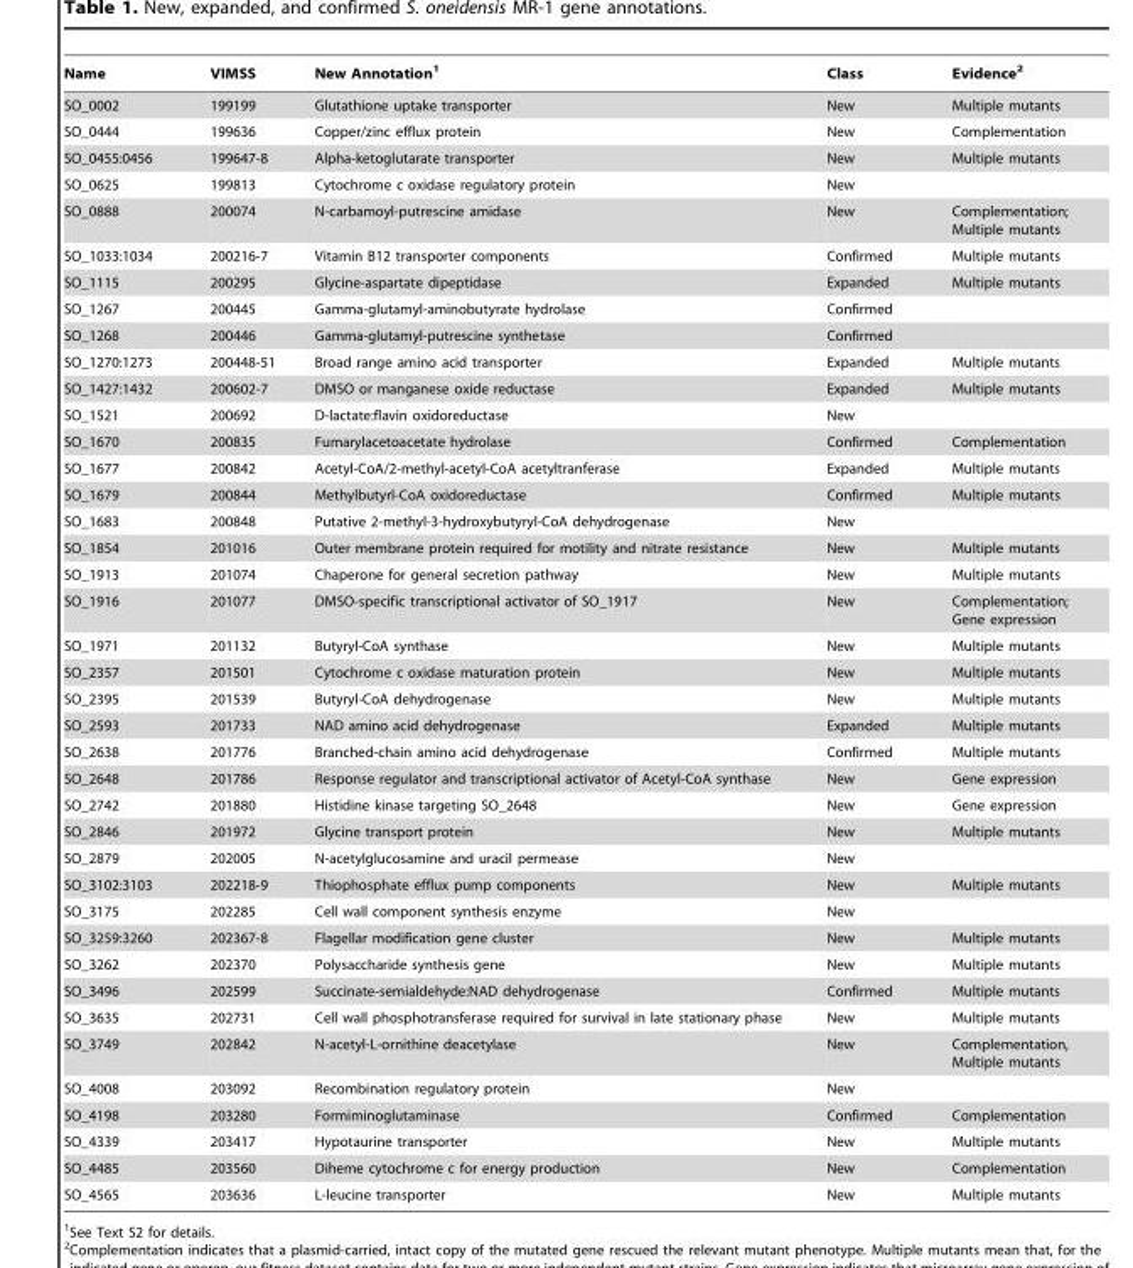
<table><thead><tr><td>Name</td><td>VIMSS</td><td>New Annotation<sup>1</sup></td><td>Class</td><td>Evidence<sup>2</sup></td></tr></thead><tbody><tr><td>SO_0002</td><td>199199</td><td>Glutathione uptake transporter</td><td>New</td><td>Multiple mutants</td></tr><tr><td>SO_0444</td><td>199636</td><td>Copper/zinc efflux protein</td><td>New</td><td>Complementation</td></tr><tr><td>SO_0455:0456</td><td>199647-8</td><td>Alpha-ketoglutarate transporter</td><td>New</td><td>Multiple mutants</td></tr><tr><td>SO_0625</td><td>199813</td><td>Cytochrome c oxidase regulatory protein</td><td>New</td><td></td></tr><tr><td>SO_0888</td><td>200074</td><td>N-carbamoyl-putrescine amidase</td><td>New</td><td>Complementation; Multiple mutants</td></tr><tr><td>SO_1033:1034</td><td>200216-7</td><td>Vitamin B12 transporter components</td><td>Confirmed</td><td>Multiple mutants</td></tr><tr><td>SO_1115</td><td>200295</td><td>Glycine-aspartate dipeptidase</td><td>Expanded</td><td>Multiple mutants</td></tr><tr><td>SO_1267</td><td>200445</td><td>Gamma-glutamyl-aminobutyrate hydrolase</td><td>Confirmed</td><td></td></tr><tr><td>SO_1268</td><td>200446</td><td>Gamma-glutamyl-putrescine synthetase</td><td>Confirmed</td><td></td></tr><tr><td>SO_1270:1273</td><td>200448-51</td><td>Broad range amino acid transporter</td><td>Expanded</td><td>Multiple mutants</td></tr><tr><td>SO_1427:1432</td><td>200602-7</td><td>DMSO or manganese oxide reductase</td><td>Expanded</td><td>Multiple mutants</td></tr><tr><td>SO_1521</td><td>200692</td><td>D-lactate:flavin oxidoreductase</td><td>New</td><td></td></tr><tr><td>SO_1670</td><td>200835</td><td>Fumarylacetoacetate hydrolase</td><td>Confirmed</td><td>Complementation</td></tr><tr><td>SO_1677</td><td>200842</td><td>Acetyl-CoA/2-methyl-acetyl-CoA acetyltranferase</td><td>Expanded</td><td>Multiple mutants</td></tr><tr><td>SO_1679</td><td>200844</td><td>Methylbutyrl-CoA oxidoreductase</td><td>Confirmed</td><td>Multiple mutants</td></tr><tr><td>SO_1683</td><td>200848</td><td>Putative 2-methyl-3-hydroxybutyryl-CoA dehydrogenase</td><td>New</td><td></td></tr><tr><td>SO_1854</td><td>201016</td><td>Outer membrane protein required for motility and nitrate resistance</td><td>New</td><td>Multiple mutants</td></tr><tr><td>SO_1913</td><td>201074</td><td>Chaperone for general secretion pathway</td><td>New</td><td>Multiple mutants</td></tr><tr><td>SO_1916</td><td>201077</td><td>DMSO-specific transcriptional activator of SO_1917</td><td>New</td><td>Complementation; Gene expression</td></tr><tr><td>SO_1971</td><td>201132</td><td>Butyryl-CoA synthase</td><td>New</td><td>Multiple mutants</td></tr><tr><td>SO_2357</td><td>201501</td><td>Cytochrome c oxidase maturation protein</td><td>New</td><td>Multiple mutants</td></tr><tr><td>SO_2395</td><td>201539</td><td>Butyryl-CoA dehydrogenase</td><td>New</td><td>Multiple mutants</td></tr><tr><td>SO_2593</td><td>201733</td><td>NAD amino acid dehydrogenase</td><td>Expanded</td><td>Multiple mutants</td></tr><tr><td>SO_2638</td><td>201776</td><td>Branched-chain amino acid dehydrogenase</td><td>Confirmed</td><td>Multiple mutants</td></tr><tr><td>SO_2648</td><td>201786</td><td>Response regulator and transcriptional activator of Acetyl-CoA synthase</td><td>New</td><td>Gene expression</td></tr><tr><td>SO_2742</td><td>201880</td><td>Histidine kinase targeting SO_2648</td><td>New</td><td>Gene expression</td></tr><tr><td>SO_2846</td><td>201972</td><td>Glycine transport protein</td><td>New</td><td>Multiple mutants</td></tr><tr><td>SO_2879</td><td>202005</td><td>N-acetylglucosamine and uracil permease</td><td>New</td><td></td></tr><tr><td>SO_3102:3103</td><td>202218-9</td><td>Thiophosphate efflux pump components</td><td>New</td><td>Multiple mutants</td></tr><tr><td>SO_3175</td><td>202285</td><td>Cell wall component synthesis enzyme</td><td>New</td><td></td></tr><tr><td>SO_3259:3260</td><td>202367-8</td><td>Flagellar modification gene cluster</td><td>New</td><td>Multiple mutants</td></tr><tr><td>SO_3262</td><td>202370</td><td>Polysaccharide synthesis gene</td><td>New</td><td>Multiple mutants</td></tr><tr><td>SO_3496</td><td>202599</td><td>Succinate-semialdehyde:NAD dehydrogenase</td><td>Confirmed</td><td>Multiple mutants</td></tr><tr><td>SO_3635</td><td>202731</td><td>Cell wall phosphotransferase required for survival in late stationary phase</td><td>New</td><td>Multiple mutants</td></tr><tr><td>SO_3749</td><td>202842</td><td>N-acetyl-L-ornithine deacetylase</td><td>New</td><td>Complementation, Multiple mutants</td></tr><tr><td>SO_4008</td><td>203092</td><td>Recombination regulatory protein</td><td>New</td><td></td></tr><tr><td>SO_4198</td><td>203280</td><td>Formiminoglutaminase</td><td>Confirmed</td><td>Complementation</td></tr><tr><td>SO_4339</td><td>203417</td><td>Hypotaurine transporter</td><td>New</td><td>Multiple mutants</td></tr><tr><td>SO_4485</td><td>203560</td><td>Diheme cytochrome c for energy production</td><td>New</td><td>Complementation</td></tr><tr><td>SO_4565</td><td>203636</td><td>L-leucine transporter</td><td>New</td><td>Multiple mutants</td></tr></tbody></table>